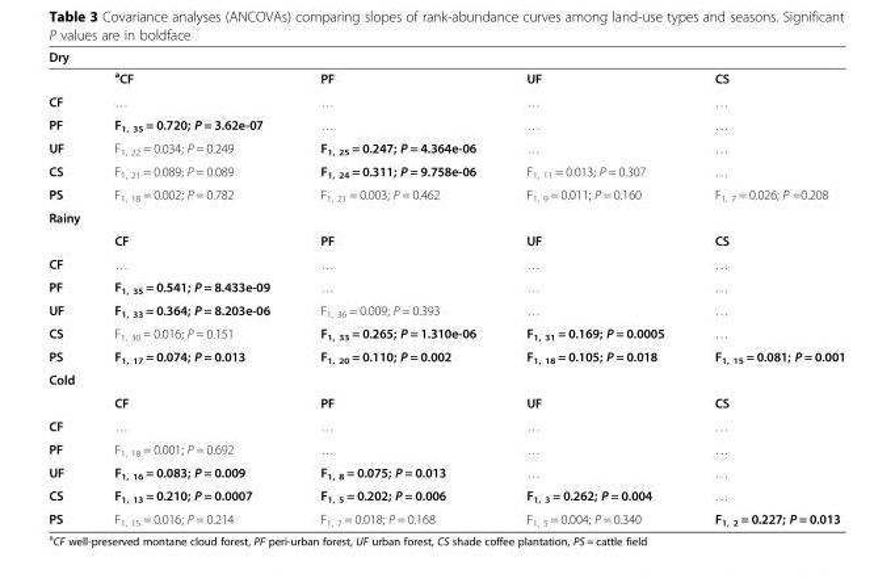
<table><thead><tr><td colspan="5">Dry</td></tr><tr><td></td><td><sup>a</sup>CF</td><td>PF</td><td>UF</td><td>CS</td></tr></thead><tbody><tr><td>CF</td><td>…</td><td>…</td><td>…</td><td>…</td></tr><tr><td>PF</td><td>F<sub>1, 35</sub> = 0.720; P = 3.62e-07</td><td>…</td><td>…</td><td>…</td></tr><tr><td>UF</td><td>F<sub>1, 22</sub> = 0.034; P = 0.249</td><td>F<sub>1, 25</sub> = 0.247; P = 4.364e-06</td><td>…</td><td>…</td></tr><tr><td>CS</td><td>F<sub>1, 21</sub> = 0.089; P = 0.089</td><td>F<sub>1, 24</sub> = 0.311; P = 9.758e-06</td><td>F<sub>1, 11</sub> = 0.013; P = 0.307</td><td>…</td></tr><tr><td>PS</td><td>F<sub>1, 18</sub> = 0.002; P = 0.782</td><td>F<sub>1, 21</sub> = 0.003; P = 0.462</td><td>F<sub>1, 9</sub> = 0.011; P = 0.160</td><td>F<sub>1, 7</sub> = 0.026; P =0.208</td></tr><tr><td colspan="5">Rainy</td></tr><tr><td></td><td>CF</td><td>PF</td><td>UF</td><td>CS</td></tr><tr><td>CF</td><td>…</td><td>…</td><td>…</td><td>…</td></tr><tr><td>PF</td><td>F<sub>1, 35</sub> = 0.541; P = 8.433e-09</td><td>…</td><td>…</td><td>…</td></tr><tr><td>UF</td><td>F<sub>1, 33</sub> = 0.364; P = 8.203e-06</td><td>F<sub>1, 36</sub> = 0.009; P = 0.393</td><td>…</td><td>…</td></tr><tr><td>CS</td><td>F<sub>1, 30</sub> = 0.016; P = 0.151</td><td>F<sub>1, 33</sub> = 0.265; P = 1.310e-06</td><td>F<sub>1, 31</sub> = 0.169; P = 0.0005</td><td>…</td></tr><tr><td>PS</td><td>F<sub>1, 17</sub> = 0.074; P = 0.013</td><td>F<sub>1, 20</sub> = 0.110; P = 0.002</td><td>F<sub>1, 18</sub> = 0.105; P = 0.018</td><td>F<sub>1, 15</sub> = 0.081; P = 0.001</td></tr><tr><td colspan="5">Cold</td></tr><tr><td></td><td>CF</td><td>PF</td><td>UF</td><td>CS</td></tr><tr><td>CF</td><td>…</td><td>…</td><td>…</td><td>…</td></tr><tr><td>PF</td><td>F<sub>1, 18</sub> = 0.001; P = 0.692</td><td>…</td><td>…</td><td>…</td></tr><tr><td>UF</td><td>F<sub>1, 16</sub> = 0.083; P = 0.009</td><td>F<sub>1, 8</sub> = 0.075; P = 0.013</td><td>…</td><td>…</td></tr><tr><td>CS</td><td>F<sub>1, 13</sub> = 0.210; P = 0.0007</td><td>F<sub>1, 5</sub> = 0.202; P = 0.006</td><td>F<sub>1, 3</sub> = 0.262; P = 0.004</td><td>…</td></tr><tr><td>PS</td><td>F<sub>1, 15</sub> = 0.016; P = 0.214</td><td>F<sub>1, 7</sub> = 0.018; P = 0.168</td><td>F<sub>1, 5</sub> = 0.004; P = 0.340</td><td>F<sub>1, 2</sub> = 0.227; P = 0.013</td></tr></tbody></table>